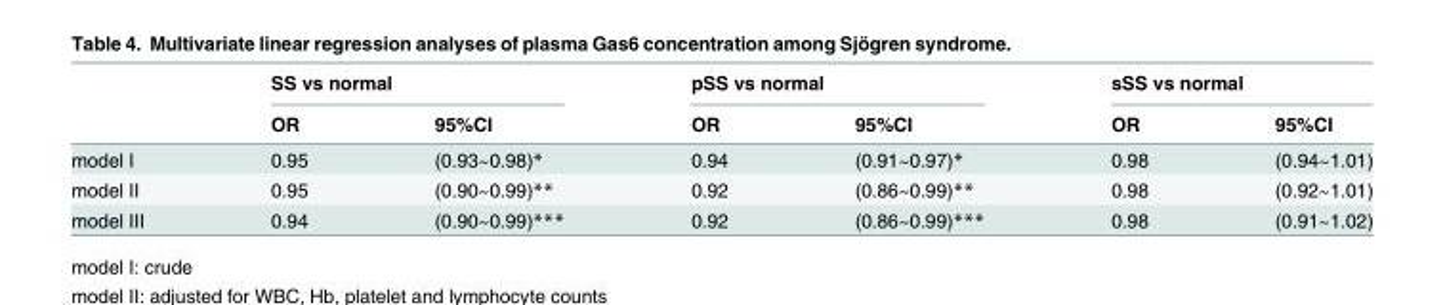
<table><thead><tr><td rowspan="2"></td><td colspan="2">SS vs normal</td><td colspan="2">pSS vs normal</td><td colspan="2">sSS vs normal</td></tr><tr><td>OR</td><td>95%CI</td><td>OR</td><td>95%CI</td><td>OR</td><td>95%CI</td></tr></thead><tbody><tr><td>model I</td><td>0.95</td><td>(0.93~0.98)*</td><td>0.94</td><td>(0.91~0.97)*</td><td>0.98</td><td>(0.94~1.01)</td></tr><tr><td>model II</td><td>0.95</td><td>(0.90~0.99)**</td><td>0.92</td><td>(0.86~0.99)**</td><td>0.98</td><td>(0.92~1.01)</td></tr><tr><td>model III</td><td>0.94</td><td>(0.90~0.99)***</td><td>0.92</td><td>(0.86~0.99)***</td><td>0.98</td><td>(0.91~1.02)</td></tr></tbody></table>